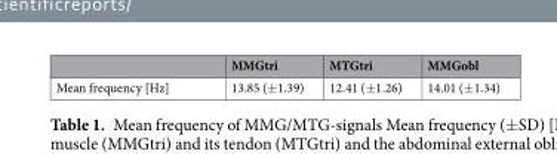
<table><thead><tr><td></td><td>MMGtri</td><td>MTGtri</td><td>MMGobl</td></tr></thead><tbody><tr><td>Mean frequency [Hz]</td><td>13.85 (±1.39)</td><td>12.41 (±1.26)</td><td>14.01 (±1.34)</td></tr></tbody></table>